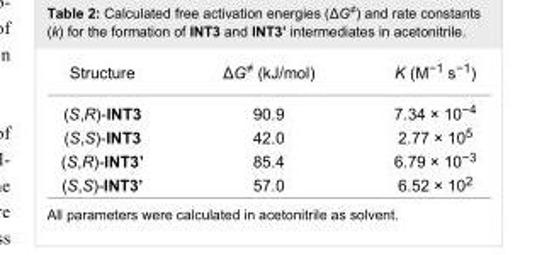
<table><tbody><tr><td>Structure</td><td>ΔG<sup>≠</sup> (kJ/mol)</td><td>K (M<sup>−1</sup> s<sup>−1</sup>)</td></tr><tr><td>(S,R)-INT3</td><td>90.9</td><td>7.34 × 10<sup>−4</sup></td></tr><tr><td>(S,S)-INT3</td><td>42.0</td><td>2.77 × 10<sup>5</sup></td></tr><tr><td>(S,R)-INT3’</td><td>85.4</td><td>6.79 × 10<sup>−3</sup></td></tr><tr><td>(S,S)-INT3’</td><td>57.0</td><td>6.52 × 10<sup>2</sup></td></tr></tbody></table>